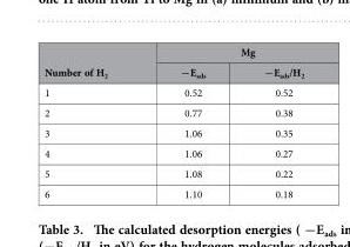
<table><thead><tr><td rowspan="2">Number of H<sub>2</sub></td><td colspan="2">Mg</td></tr><tr><td>−E<sub>ads</sub></td><td>−E<sub>ads</sub>/H<sub>2</sub></td></tr></thead><tbody><tr><td>1</td><td>0.52</td><td>0.52</td></tr><tr><td>2</td><td>0.77</td><td>0.38</td></tr><tr><td>3</td><td>1.06</td><td>0.35</td></tr><tr><td>4</td><td>1.06</td><td>0.27</td></tr><tr><td>5</td><td>1.08</td><td>0.22</td></tr><tr><td>6</td><td>1.10</td><td>0.18</td></tr></tbody></table>